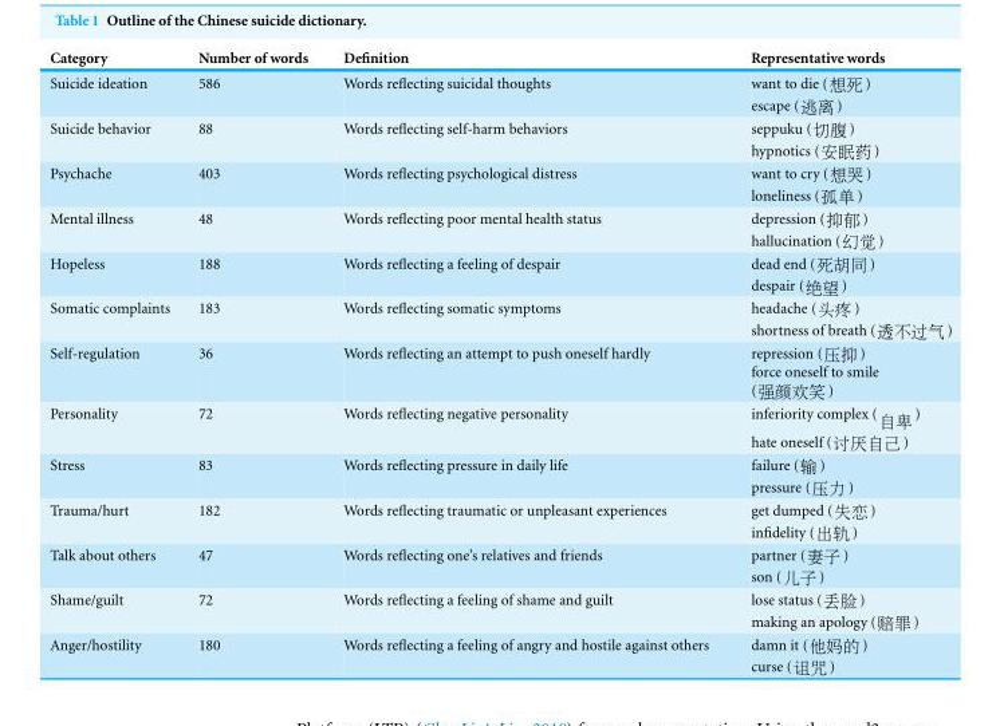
<table><thead><tr><td>Category</td><td>Number of words</td><td>Definition</td><td>Representative words</td></tr></thead><tbody><tr><td>Suicide ideation</td><td>586</td><td>Words reflecting suicidal thoughts</td><td>want to die (想死 ) escape (逃离 )</td></tr><tr><td>Suicide behavior</td><td>88</td><td>Words reflecting self-harm behaviors</td><td>seppuku (切腹 ) hypnotics (安眠药 )</td></tr><tr><td>Psychache</td><td>403</td><td>Words reflecting psychological distress</td><td>want to cry (想哭 ) loneliness (孤单 )</td></tr><tr><td>Mental illness</td><td>48</td><td>Words reflecting poor mental health status</td><td>depression (抑郁 ) hallucination (幻觉 )</td></tr><tr><td>Hopeless</td><td>188</td><td>Words reflecting a feeling of despair</td><td>dead end (死胡同 ) despair (绝望 )</td></tr><tr><td>Somatic complaints</td><td>183</td><td>Words reflecting somatic symptoms</td><td>headache (头疼 ) shortness of breath (透不过气 )</td></tr><tr><td>Self-regulation</td><td>36</td><td>Words reflecting an attempt to push oneself hardly</td><td>repression (压抑 ) force oneself to smile (强颜欢笑 )</td></tr><tr><td>Personality</td><td>72</td><td>Words reflecting negative personality</td><td>inferiority complex (自卑 ) hate oneself (讨厌自己 )</td></tr><tr><td>Stress</td><td>83</td><td>Words reflecting pressure in daily life</td><td>failure (输 ) pressure (压力 )</td></tr><tr><td>Trauma/hurt</td><td>182</td><td>Words reflecting traumatic or unpleasant experiences</td><td>get dumped (失恋 ) infidelity (出轨 )</td></tr><tr><td>Talk about others</td><td>47</td><td>Words reflecting one’s relatives and friends</td><td>partner (妻子 ) son (儿子 )</td></tr><tr><td>Shame/guilt</td><td>72</td><td>Words reflecting a feeling of shame and guilt</td><td>lose status (丢脸 ) making an apology (赔罪 )</td></tr><tr><td>Anger/hostility</td><td>180</td><td>Words reflecting a feeling of angry and hostile against others</td><td>damn it (他妈的 ) curse (诅咒 )</td></tr></tbody></table>